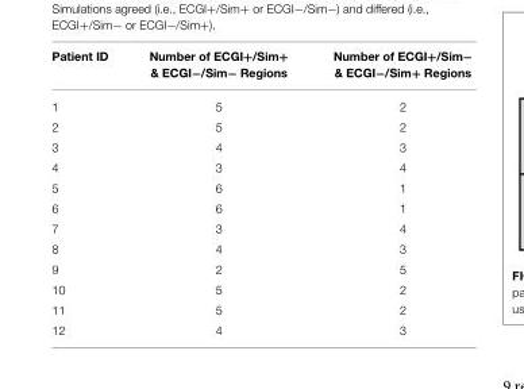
<table><thead><tr><td>Patient ID</td><td>Number of ECGI+/Sim+ &amp; ECGI−/Sim− Regions</td><td>Number of ECGI+/Sim− &amp; ECGI−/Sim+ Regions</td></tr></thead><tbody><tr><td>1</td><td>5</td><td>2</td></tr><tr><td>2</td><td>5</td><td>2</td></tr><tr><td>3</td><td>4</td><td>3</td></tr><tr><td>4</td><td>3</td><td>4</td></tr><tr><td>5</td><td>6</td><td>1</td></tr><tr><td>6</td><td>6</td><td>1</td></tr><tr><td>7</td><td>3</td><td>4</td></tr><tr><td>8</td><td>4</td><td>3</td></tr><tr><td>9</td><td>2</td><td>5</td></tr><tr><td>10</td><td>5</td><td>2</td></tr><tr><td>11</td><td>5</td><td>2</td></tr><tr><td>12</td><td>4</td><td>3</td></tr></tbody></table>